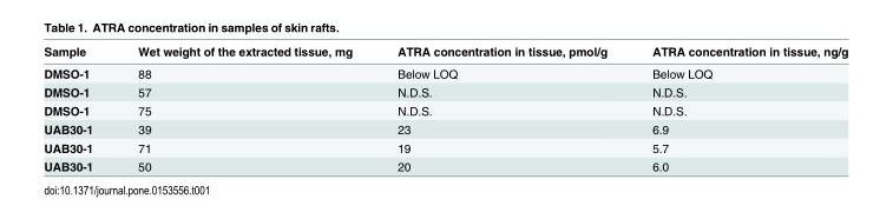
<table><thead><tr><td>Sample</td><td>Wet weight of the extracted tissue, mg</td><td>ATRA concentration in tissue, pmol/g</td><td>ATRA concentration in tissue, ng/g</td></tr></thead><tbody><tr><td>DMSO-1</td><td>88</td><td>Below LOQ</td><td>Below LOQ</td></tr><tr><td>DMSO-1</td><td>57</td><td>N.D.S.</td><td>N.D.S.</td></tr><tr><td>DMSO-1</td><td>75</td><td>N.D.S.</td><td>N.D.S.</td></tr><tr><td>UAB30-1</td><td>39</td><td>23</td><td>6.9</td></tr><tr><td>UAB30-1</td><td>71</td><td>19</td><td>5.7</td></tr><tr><td>UAB30-1</td><td>50</td><td>20</td><td>6.0</td></tr></tbody></table>